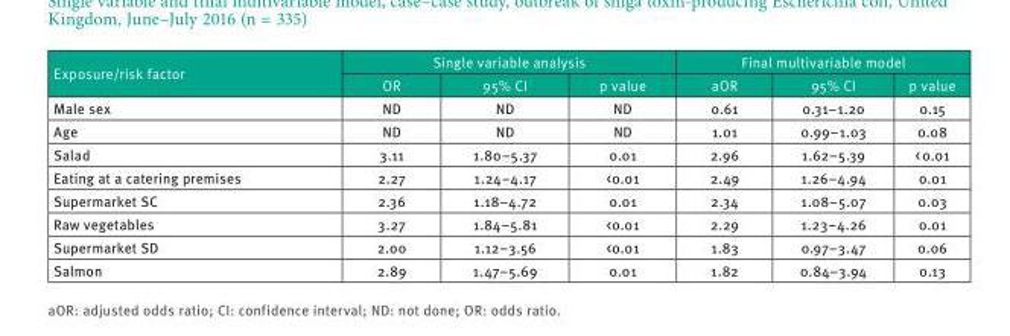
<table><thead><tr><td rowspan="2">Exposure/risk factor</td><td colspan="3">Single variable analysis</td><td colspan="3">Final multivariable model</td></tr><tr><td>OR</td><td>95% CI</td><td>p value</td><td>aOR</td><td>95% CI</td><td>p value</td></tr></thead><tbody><tr><td>Male sex</td><td>ND</td><td>ND</td><td>ND</td><td>0.61</td><td>0.31–1.20</td><td>0.15</td></tr><tr><td>Age</td><td>ND</td><td>ND</td><td>ND</td><td>1.01</td><td>0.99–1.03</td><td>0.08</td></tr><tr><td>Salad</td><td>3.11</td><td>1.80–5.37</td><td>0.01</td><td>2.96</td><td>1.62–5.39</td><td>&lt; 0.01</td></tr><tr><td>Eating at a catering premises</td><td>2.27</td><td>1.24–4.17</td><td>&lt;0.01</td><td>2.49</td><td>1.26–4.94</td><td>0.01</td></tr><tr><td>Supermarket SC</td><td>2.36</td><td>1.18–4.72</td><td>0.01</td><td>2.34</td><td>1.08–5.07</td><td>0.03</td></tr><tr><td>Raw vegetables</td><td>3.27</td><td>1.84–5.81</td><td>&lt;0.01</td><td>2.29</td><td>1.23–4.26</td><td>0.01</td></tr><tr><td>Supermarket SD</td><td>2.00</td><td>1.12–3.56</td><td>&lt;0.01</td><td>1.83</td><td>0.97–3.47</td><td>0.06</td></tr><tr><td>Salmon</td><td>2.89</td><td>1.47–5.69</td><td>0.01</td><td>1.82</td><td>0.84–3.94</td><td>0.13</td></tr></tbody></table>